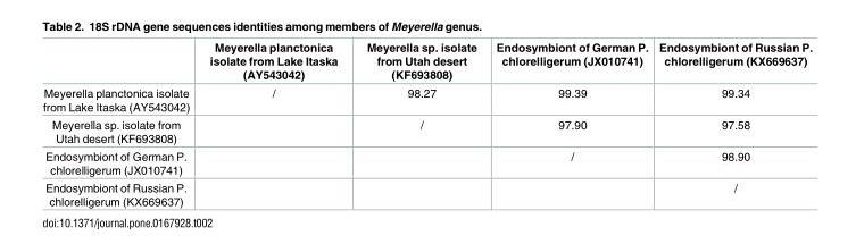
<table><thead><tr><td></td><td>Meyerella planctonica isolate from Lake Itaska (AY543042)</td><td>Meyerella sp. isolate from Utah desert (KF693808)</td><td>Endosymbiont of German P. chlorelligerum (JX010741)</td><td>Endosymbiont of Russian P. chlorelligerum (KX669637)</td></tr></thead><tbody><tr><td>Meyerella planctonica isolate from Lake Itaska (AY543042)</td><td>/</td><td>98.27</td><td>99.39</td><td>99.34</td></tr><tr><td>Meyerella sp. isolate from Utah desert (KF693808)</td><td></td><td>/</td><td>97.90</td><td>97.58</td></tr><tr><td>Endosymbiont of German P. chlorelligerum (JX010741)</td><td></td><td></td><td>/</td><td>98.90</td></tr><tr><td>Endosymbiont of Russian P. chlorelligerum (KX669637)</td><td></td><td></td><td></td><td>/</td></tr></tbody></table>